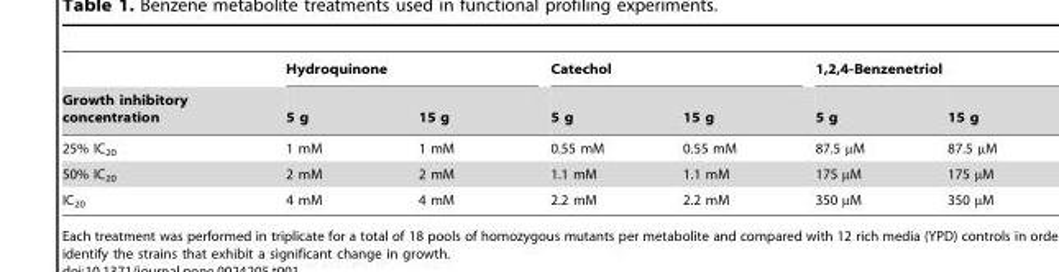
<table><thead><tr><td rowspan="2">Growth inhibitory concentration</td><td colspan="2">Hydroquinone</td><td colspan="2">Catechol</td><td colspan="2">1,2,4-Benzenetriol</td></tr><tr><td>5 g</td><td>15 g</td><td>5 g</td><td>15 g</td><td>5 g</td><td>15 g</td></tr></thead><tbody><tr><td>25% IC<sub>20</sub></td><td>1 mM</td><td>1 mM</td><td>0.55 mM</td><td>0.55 mM</td><td>87.5 µM</td><td>87.5 µM</td></tr><tr><td>50% IC<sub>20</sub></td><td>2 mM</td><td>2 mM</td><td>1.1 mM</td><td>1.1 mM</td><td>175 µM</td><td>175 µM</td></tr><tr><td>IC<sub>20</sub></td><td>4 mM</td><td>4 mM</td><td>2.2 mM</td><td>2.2 mM</td><td>350 µM</td><td>350 µM</td></tr></tbody></table>